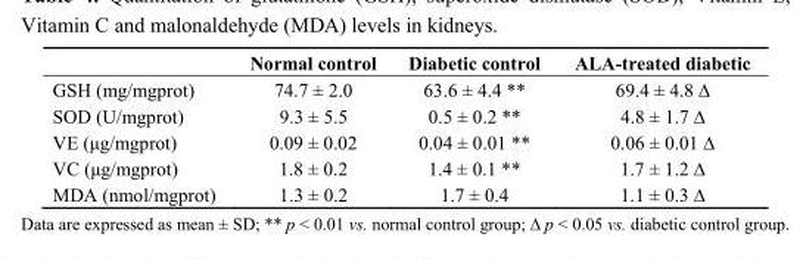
<table><thead><tr><td></td><td>Normal control</td><td>Diabetic control</td><td>ALA-treated diabetic</td></tr></thead><tbody><tr><td>GSH (mg/mgprot)</td><td>74.7 ± 2.0</td><td>63.6 ± 4.4 **</td><td>69.4 ± 4.8 ∆</td></tr><tr><td>SOD (U/mgprot)</td><td>9.3 ± 5.5</td><td>0.5 ± 0.2 **</td><td>4.8 ± 1.7 ∆</td></tr><tr><td>VE (μg/mgprot)</td><td>0.09 ± 0.02</td><td>0.04 ± 0.01 **</td><td>0.06 ± 0.01 ∆</td></tr><tr><td>VC (μg/mgprot)</td><td>1.8 ± 0.2</td><td>1.4 ± 0.1 **</td><td>1.7 ± 1.2 ∆</td></tr><tr><td>MDA (nmol/mgprot)</td><td>1.3 ± 0.2</td><td>1.7 ± 0.4</td><td>1.1 ± 0.3 ∆</td></tr></tbody></table>